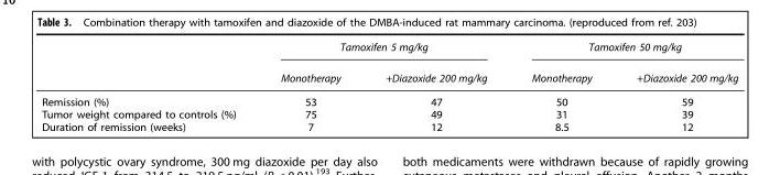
<table><thead><tr><td rowspan="2"></td><td colspan="2">Tamoxifen 5 mg/kg</td><td colspan="2">Tamoxifen 50 mg/kg</td></tr><tr><td>Monotherapy</td><td>+Diazoxide 200 mg/kg</td><td>Monotherapy</td><td>+Diazoxide 200 mg/kg</td></tr></thead><tbody><tr><td>Remission (%)</td><td>53</td><td>47</td><td>50</td><td>59</td></tr><tr><td>Tumor weight compared to controls (%)</td><td>75</td><td>49</td><td>31</td><td>39</td></tr><tr><td>Duration of remission (weeks)</td><td>7</td><td>12</td><td>8.5</td><td>12</td></tr></tbody></table>